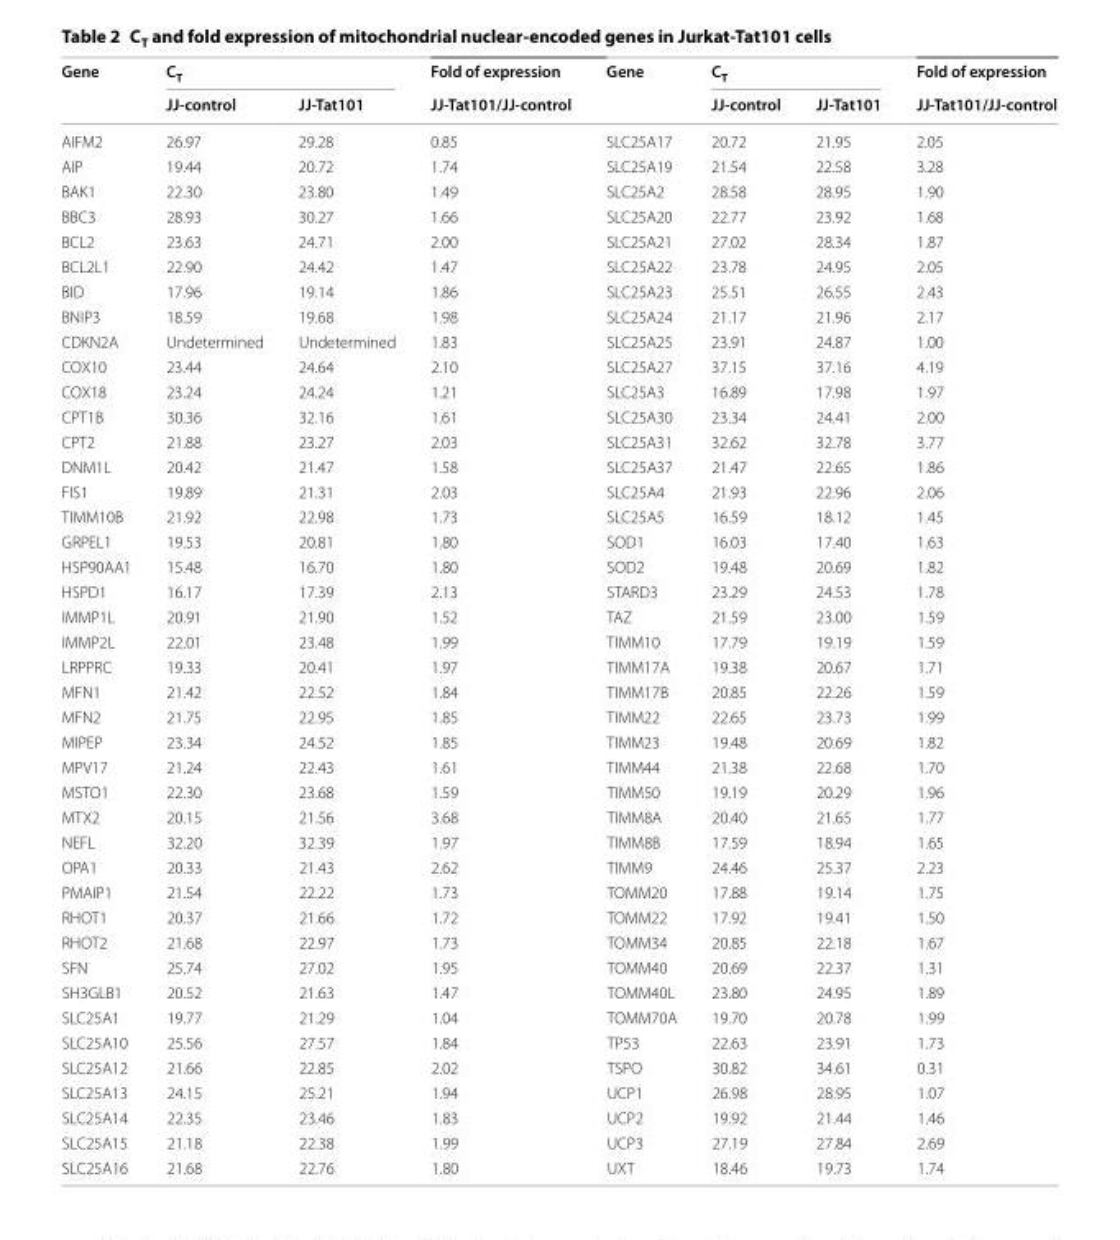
<table><thead><tr><td rowspan="2">Gene</td><td colspan="2">C<sub>T</sub></td><td rowspan="2">Fold of expression JJ-Tat101/JJ-control</td><td rowspan="2">Gene</td><td colspan="2">C<sub>T</sub></td><td rowspan="2">Fold of expression JJ-Tat101/JJ-control</td></tr><tr><td>JJ-control</td><td>JJ-Tat101</td><td>JJ-control</td><td>JJ-Tat101</td></tr></thead><tbody><tr><td>AIFM2</td><td>26.97</td><td>29.28</td><td>0.85</td><td>SLC25A17</td><td>20.72</td><td>21.95</td><td>2.05</td></tr><tr><td>AIP</td><td>19.44</td><td>20.72</td><td>1.74</td><td>SLC25A19</td><td>21.54</td><td>22.58</td><td>3.28</td></tr><tr><td>BAK1</td><td>22.30</td><td>23.80</td><td>1.49</td><td>SLC25A2</td><td>28.58</td><td>28.95</td><td>1.90</td></tr><tr><td>BBC3</td><td>28.93</td><td>30.27</td><td>1.66</td><td>SLC25A20</td><td>22.77</td><td>23.92</td><td>1.68</td></tr><tr><td>BCL2</td><td>23.63</td><td>24.71</td><td>2.00</td><td>SLC25A21</td><td>27.02</td><td>28.34</td><td>1.87</td></tr><tr><td>BCL2L1</td><td>22.90</td><td>24.42</td><td>1.47</td><td>SLC25A22</td><td>23.78</td><td>24.95</td><td>2.05</td></tr><tr><td>BID</td><td>17.96</td><td>19.14</td><td>1.86</td><td>SLC25A23</td><td>25.51</td><td>26.55</td><td>2.43</td></tr><tr><td>BNIP3</td><td>18.59</td><td>19.68</td><td>1.98</td><td>SLC25A24</td><td>21.17</td><td>21.96</td><td>2.17</td></tr><tr><td>CDKN2A</td><td>Undetermined</td><td>Undetermined</td><td>1.83</td><td>SLC25A25</td><td>23.91</td><td>24.87</td><td>1.00</td></tr><tr><td>COX10</td><td>23.44</td><td>24.64</td><td>2.10</td><td>SLC25A27</td><td>37.15</td><td>37.16</td><td>4.19</td></tr><tr><td>COX18</td><td>23.24</td><td>24.24</td><td>1.21</td><td>SLC25A3</td><td>16.89</td><td>17.98</td><td>1.97</td></tr><tr><td>CPT1B</td><td>30.36</td><td>32.16</td><td>1.61</td><td>SLC25A30</td><td>23.34</td><td>24.41</td><td>2.00</td></tr><tr><td>CPT2</td><td>21.88</td><td>23.27</td><td>2.03</td><td>SLC25A31</td><td>32.62</td><td>32.78</td><td>3.77</td></tr><tr><td>DNM1L</td><td>20.42</td><td>21.47</td><td>1.58</td><td>SLC25A37</td><td>21.47</td><td>22.65</td><td>1.86</td></tr><tr><td>FIS1</td><td>19.89</td><td>21.31</td><td>2.03</td><td>SLC25A4</td><td>21.93</td><td>22.96</td><td>2.06</td></tr><tr><td>TIMM10B</td><td>21.92</td><td>22.98</td><td>1.73</td><td>SLC25A5</td><td>16.59</td><td>18.12</td><td>1.45</td></tr><tr><td>GRPEL1</td><td>19.53</td><td>20.81</td><td>1.80</td><td>SOD1</td><td>16.03</td><td>17.40</td><td>1.63</td></tr><tr><td>HSP90AA1</td><td>15.48</td><td>16.70</td><td>1.80</td><td>SOD2</td><td>19.48</td><td>20.69</td><td>1.82</td></tr><tr><td>HSPD1</td><td>16.17</td><td>17.39</td><td>2.13</td><td>STARD3</td><td>23.29</td><td>24.53</td><td>1.78</td></tr><tr><td>IMMP1L</td><td>20.91</td><td>21.90</td><td>1.52</td><td>TAZ</td><td>21.59</td><td>23.00</td><td>1.59</td></tr><tr><td>IMMP2L</td><td>22.01</td><td>23.48</td><td>1.99</td><td>TIMM10</td><td>17.79</td><td>19.19</td><td>1.59</td></tr><tr><td>LRPPRC</td><td>19.33</td><td>20.41</td><td>1.97</td><td>TIMM17A</td><td>19.38</td><td>20.67</td><td>1.71</td></tr><tr><td>MFN1</td><td>21.42</td><td>22.52</td><td>1.84</td><td>TIMM17B</td><td>20.85</td><td>22.26</td><td>1.59</td></tr><tr><td>MFN2</td><td>21.75</td><td>22.95</td><td>1.85</td><td>TIMM22</td><td>22.65</td><td>23.73</td><td>1.99</td></tr><tr><td>MIPEP</td><td>23.34</td><td>24.52</td><td>1.85</td><td>TIMM23</td><td>19.48</td><td>20.69</td><td>1.82</td></tr><tr><td>MPV17</td><td>21.24</td><td>22.43</td><td>1.61</td><td>TIMM44</td><td>21.38</td><td>22.68</td><td>1.70</td></tr><tr><td>MSTO1</td><td>22.30</td><td>23.68</td><td>1.59</td><td>TIMM50</td><td>19.19</td><td>20.29</td><td>1.96</td></tr><tr><td>MTX2</td><td>20.15</td><td>21.56</td><td>3.68</td><td>TIMM8A</td><td>20.40</td><td>21.65</td><td>1.77</td></tr><tr><td>NEFL</td><td>32.20</td><td>32.39</td><td>1.97</td><td>TIMM8B</td><td>17.59</td><td>18.94</td><td>1.65</td></tr><tr><td>OPA1</td><td>20.33</td><td>21.43</td><td>2.62</td><td>TIMM9</td><td>24.46</td><td>25.37</td><td>2.23</td></tr><tr><td>PMAIP1</td><td>21.54</td><td>22.22</td><td>1.73</td><td>TOMM20</td><td>17.88</td><td>19.14</td><td>1.75</td></tr><tr><td>RHOT1</td><td>20.37</td><td>21.66</td><td>1.72</td><td>TOMM22</td><td>17.92</td><td>19.41</td><td>1.50</td></tr><tr><td>RHOT2</td><td>21.68</td><td>22.97</td><td>1.73</td><td>TOMM34</td><td>20.85</td><td>22.18</td><td>1.67</td></tr><tr><td>SFN</td><td>25.74</td><td>27.02</td><td>1.95</td><td>TOMM40</td><td>20.69</td><td>22.37</td><td>1.31</td></tr><tr><td>SH3GLB1</td><td>20.52</td><td>21.63</td><td>1.47</td><td>TOMM40L</td><td>23.80</td><td>24.95</td><td>1.89</td></tr><tr><td>SLC25A1</td><td>19.77</td><td>21.29</td><td>1.04</td><td>TOMM70A</td><td>19.70</td><td>20.78</td><td>1.99</td></tr><tr><td>SLC25A10</td><td>25.56</td><td>27.57</td><td>1.84</td><td>TP53</td><td>22.63</td><td>23.91</td><td>1.73</td></tr><tr><td>SLC25A12</td><td>21.66</td><td>22.85</td><td>2.02</td><td>TSPO</td><td>30.82</td><td>34.61</td><td>0.31</td></tr><tr><td>SLC25A13</td><td>24.15</td><td>25.21</td><td>1.94</td><td>UCP1</td><td>26.98</td><td>28.95</td><td>1.07</td></tr><tr><td>SLC25A14</td><td>22.35</td><td>23.46</td><td>1.83</td><td>UCP2</td><td>19.92</td><td>21.44</td><td>1.46</td></tr><tr><td>SLC25A15</td><td>21.18</td><td>22.38</td><td>1.99</td><td>UCP3</td><td>27.19</td><td>27.84</td><td>2.69</td></tr><tr><td>SLC25A16</td><td>21.68</td><td>22.76</td><td>1.80</td><td>UXT</td><td>18.46</td><td>19.73</td><td>1.74</td></tr></tbody></table>